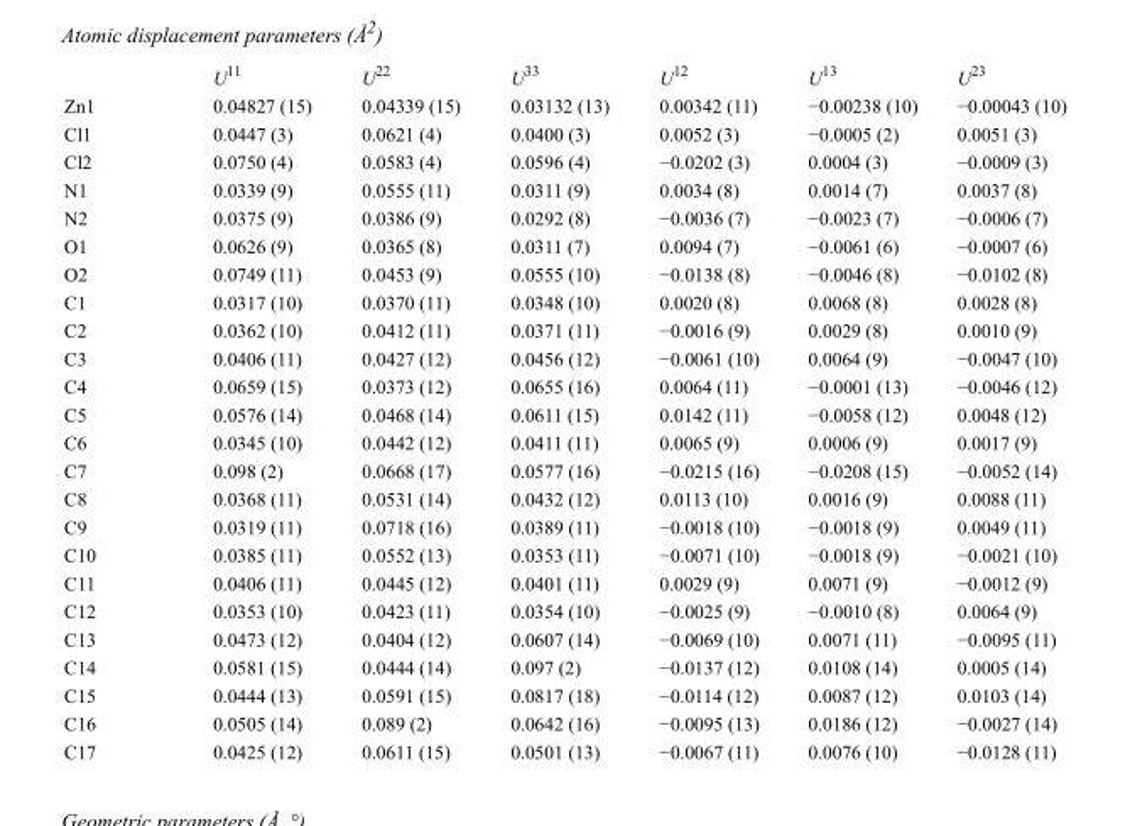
<table><thead><tr><td></td><td>U<sup>11</sup></td><td>U<sup>22</sup></td><td>U<sup>33</sup></td><td>U<sup>12</sup></td><td>U<sup>13</sup></td><td>U<sup>23</sup></td></tr></thead><tbody><tr><td>Zn1</td><td>0.04827 (15)</td><td>0.04339 (15)</td><td>0.03132 (13)</td><td>0.00342 (11)</td><td>−0.00238 (10)</td><td>−0.00043 (10)</td></tr><tr><td>Cl1</td><td>0.0447 (3)</td><td>0.0621 (4)</td><td>0.0400 (3)</td><td>0.0052 (3)</td><td>−0.0005 (2)</td><td>0.0051 (3)</td></tr><tr><td>Cl2</td><td>0.0750 (4)</td><td>0.0583 (4)</td><td>0.0596 (4)</td><td>−0.0202 (3)</td><td>0.0004 (3)</td><td>−0.0009 (3)</td></tr><tr><td>N1</td><td>0.0339 (9)</td><td>0.0555 (11)</td><td>0.0311 (9)</td><td>0.0034 (8)</td><td>0.0014 (7)</td><td>0.0037 (8)</td></tr><tr><td>N2</td><td>0.0375 (9)</td><td>0.0386 (9)</td><td>0.0292 (8)</td><td>−0.0036 (7)</td><td>−0.0023 (7)</td><td>−0.0006 (7)</td></tr><tr><td>O1</td><td>0.0626 (9)</td><td>0.0365 (8)</td><td>0.0311 (7)</td><td>0.0094 (7)</td><td>−0.0061 (6)</td><td>−0.0007 (6)</td></tr><tr><td>O2</td><td>0.0749 (11)</td><td>0.0453 (9)</td><td>0.0555 (10)</td><td>−0.0138 (8)</td><td>−0.0046 (8)</td><td>−0.0102 (8)</td></tr><tr><td>C1</td><td>0.0317 (10)</td><td>0.0370 (11)</td><td>0.0348 (10)</td><td>0.0020 (8)</td><td>0.0068 (8)</td><td>0.0028 (8)</td></tr><tr><td>C2</td><td>0.0362 (10)</td><td>0.0412 (11)</td><td>0.0371 (11)</td><td>−0.0016 (9)</td><td>0.0029 (8)</td><td>0.0010 (9)</td></tr><tr><td>C3</td><td>0.0406 (11)</td><td>0.0427 (12)</td><td>0.0456 (12)</td><td>−0.0061 (10)</td><td>0.0064 (9)</td><td>−0.0047 (10)</td></tr><tr><td>C4</td><td>0.0659 (15)</td><td>0.0373 (12)</td><td>0.0655 (16)</td><td>0.0064 (11)</td><td>−0.0001 (13)</td><td>−0.0046 (12)</td></tr><tr><td>C5</td><td>0.0576 (14)</td><td>0.0468 (14)</td><td>0.0611 (15)</td><td>0.0142 (11)</td><td>−0.0058 (12)</td><td>0.0048 (12)</td></tr><tr><td>C6</td><td>0.0345 (10)</td><td>0.0442 (12)</td><td>0.0411 (11)</td><td>0.0065 (9)</td><td>0.0006 (9)</td><td>0.0017 (9)</td></tr><tr><td>C7</td><td>0.098 (2)</td><td>0.0668 (17)</td><td>0.0577 (16)</td><td>−0.0215 (16)</td><td>−0.0208 (15)</td><td>−0.0052 (14)</td></tr><tr><td>C8</td><td>0.0368 (11)</td><td>0.0531 (14)</td><td>0.0432 (12)</td><td>0.0113 (10)</td><td>0.0016 (9)</td><td>0.0088 (11)</td></tr><tr><td>C9</td><td>0.0319 (11)</td><td>0.0718 (16)</td><td>0.0389 (11)</td><td>−0.0018 (10)</td><td>−0.0018 (9)</td><td>0.0049 (11)</td></tr><tr><td>C10</td><td>0.0385 (11)</td><td>0.0552 (13)</td><td>0.0353 (11)</td><td>−0.0071 (10)</td><td>−0.0018 (9)</td><td>−0.0021 (10)</td></tr><tr><td>C11</td><td>0.0406 (11)</td><td>0.0445 (12)</td><td>0.0401 (11)</td><td>0.0029 (9)</td><td>0.0071 (9)</td><td>−0.0012 (9)</td></tr><tr><td>C12</td><td>0.0353 (10)</td><td>0.0423 (11)</td><td>0.0354 (10)</td><td>−0.0025 (9)</td><td>−0.0010 (8)</td><td>0.0064 (9)</td></tr><tr><td>C13</td><td>0.0473 (12)</td><td>0.0404 (12)</td><td>0.0607 (14)</td><td>−0.0069 (10)</td><td>0.0071 (11)</td><td>−0.0095 (11)</td></tr><tr><td>C14</td><td>0.0581 (15)</td><td>0.0444 (14)</td><td>0.097 (2)</td><td>−0.0137 (12)</td><td>0.0108 (14)</td><td>0.0005 (14)</td></tr><tr><td>C15</td><td>0.0444 (13)</td><td>0.0591 (15)</td><td>0.0817 (18)</td><td>−0.0114 (12)</td><td>0.0087 (12)</td><td>0.0103 (14)</td></tr><tr><td>C16</td><td>0.0505 (14)</td><td>0.089 (2)</td><td>0.0642 (16)</td><td>−0.0095 (13)</td><td>0.0186 (12)</td><td>−0.0027 (14)</td></tr><tr><td>C17</td><td>0.0425 (12)</td><td>0.0611 (15)</td><td>0.0501 (13)</td><td>−0.0067 (11)</td><td>0.0076 (10)</td><td>−0.0128 (11)</td></tr></tbody></table>